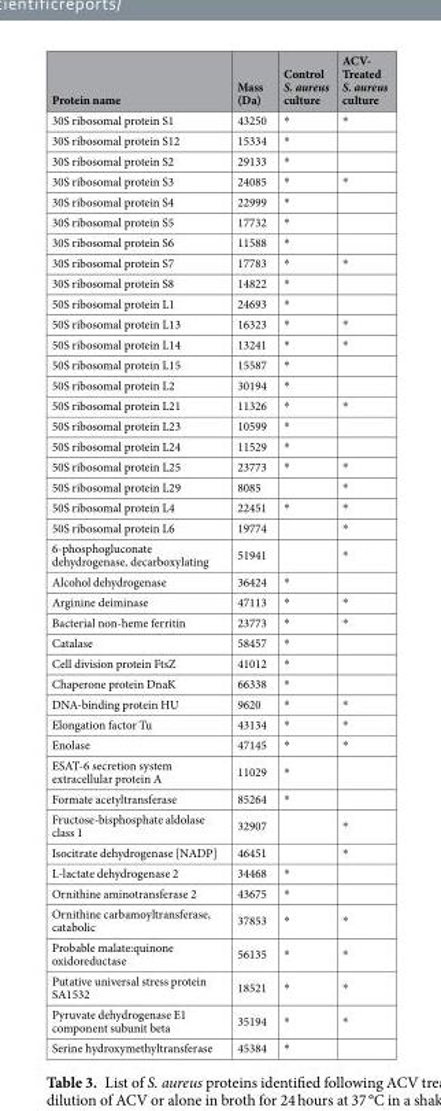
<table><thead><tr><td>Protein name</td><td>Mass (Da)</td><td>Control S. aureus culture</td><td>ACV- Treated S. aureus culture</td></tr></thead><tbody><tr><td>30S ribosomal protein S1</td><td>43250</td><td>*</td><td>*</td></tr><tr><td>30S ribosomal protein S12</td><td>15334</td><td>*</td><td></td></tr><tr><td>30S ribosomal protein S2</td><td>29133</td><td>*</td><td></td></tr><tr><td>30S ribosomal protein S3</td><td>24085</td><td>*</td><td>*</td></tr><tr><td>30S ribosomal protein S4</td><td>22999</td><td>*</td><td></td></tr><tr><td>30S ribosomal protein S5</td><td>17732</td><td>*</td><td></td></tr><tr><td>30S ribosomal protein S6</td><td>11588</td><td>*</td><td></td></tr><tr><td>30S ribosomal protein S7</td><td>17783</td><td>*</td><td>*</td></tr><tr><td>30S ribosomal protein S8</td><td>14822</td><td>*</td><td></td></tr><tr><td>50S ribosomal protein L1</td><td>24693</td><td>*</td><td></td></tr><tr><td>50S ribosomal protein L13</td><td>16323</td><td>*</td><td>*</td></tr><tr><td>50S ribosomal protein L14</td><td>13241</td><td>*</td><td>*</td></tr><tr><td>50S ribosomal protein L15</td><td>15587</td><td>*</td><td></td></tr><tr><td>50S ribosomal protein L2</td><td>30194</td><td>*</td><td></td></tr><tr><td>50S ribosomal protein L21</td><td>11326</td><td>*</td><td>*</td></tr><tr><td>50S ribosomal protein L23</td><td>10599</td><td>*</td><td></td></tr><tr><td>50S ribosomal protein L24</td><td>11529</td><td>*</td><td></td></tr><tr><td>50S ribosomal protein L25</td><td>23773</td><td>*</td><td>*</td></tr><tr><td>50S ribosomal protein L29</td><td>8085</td><td></td><td>*</td></tr><tr><td>50S ribosomal protein L4</td><td>22451</td><td>*</td><td>*</td></tr><tr><td>50S ribosomal protein L6</td><td>19774</td><td></td><td>*</td></tr><tr><td>6-phosphogluconate dehydrogenase, decarboxylating</td><td>51941</td><td></td><td>*</td></tr><tr><td>Alcohol dehydrogenase</td><td>36424</td><td>*</td><td></td></tr><tr><td>Arginine deiminase</td><td>47113</td><td>*</td><td>*</td></tr><tr><td>Bacterial non-heme ferritin</td><td>23773</td><td>*</td><td>*</td></tr><tr><td>Catalase</td><td>58457</td><td>*</td><td></td></tr><tr><td>Cell division protein FtsZ</td><td>41012</td><td>*</td><td></td></tr><tr><td>Chaperone protein DnaK</td><td>66338</td><td>*</td><td></td></tr><tr><td>DNA-binding protein HU</td><td>9620</td><td>*</td><td>*</td></tr><tr><td>Elongation factor Tu</td><td>43134</td><td>*</td><td>*</td></tr><tr><td>Enolase</td><td>47145</td><td>*</td><td>*</td></tr><tr><td>ESAT-6 secretion system extracellular protein A</td><td>11029</td><td>*</td><td></td></tr><tr><td>Formate acetyltransferase</td><td>85264</td><td>*</td><td></td></tr><tr><td>Fructose-bisphosphate aldolase class 1</td><td>32907</td><td></td><td>*</td></tr><tr><td>Isocitrate dehydrogenase [NADP]</td><td>46451</td><td></td><td>*</td></tr><tr><td>L-lactate dehydrogenase 2</td><td>34468</td><td>*</td><td></td></tr><tr><td>Ornithine aminotransferase 2</td><td>43675</td><td>*</td><td></td></tr><tr><td>Ornithine carbamoyltransferase, catabolic</td><td>37853</td><td>*</td><td>*</td></tr><tr><td>Probable malate:quinone oxidoreductase</td><td>56135</td><td>*</td><td>*</td></tr><tr><td>Putative universal stress protein SA1532</td><td>18521</td><td>*</td><td>*</td></tr><tr><td>Pyruvate dehydrogenase E1 component subunit beta</td><td>35194</td><td>*</td><td>*</td></tr><tr><td>Serine hydroxymethyltransferase</td><td>45384</td><td>*</td><td></td></tr></tbody></table>